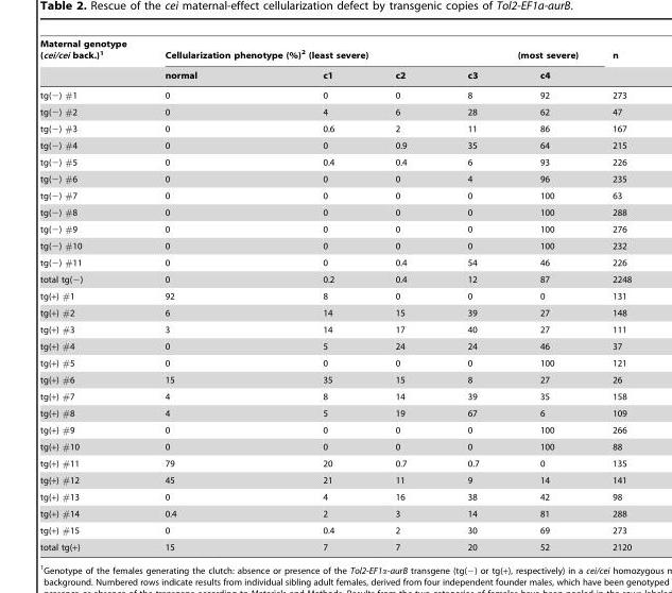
<table><thead><tr><td rowspan="2">Maternal genotype (cei/cei back.)<sup>1</sup></td><td colspan="5">Cellularization phenotype (%)<sup>2</sup> (least severe) (most severe)</td><td rowspan="2">n</td></tr><tr><td>normal</td><td>c1</td><td>c2</td><td>c3</td><td>c4</td></tr></thead><tbody><tr><td>tg(−) #1</td><td>0</td><td>0</td><td>0</td><td>8</td><td>92</td><td>273</td></tr><tr><td>tg(−) #2</td><td>0</td><td>4</td><td>6</td><td>28</td><td>62</td><td>47</td></tr><tr><td>tg(−) #3</td><td>0</td><td>0.6</td><td>2</td><td>11</td><td>86</td><td>167</td></tr><tr><td>tg(−) #4</td><td>0</td><td>0</td><td>0.9</td><td>35</td><td>64</td><td>215</td></tr><tr><td>tg(−) #5</td><td>0</td><td>0.4</td><td>0.4</td><td>6</td><td>93</td><td>226</td></tr><tr><td>tg(−) #6</td><td>0</td><td>0</td><td>0</td><td>4</td><td>96</td><td>235</td></tr><tr><td>tg(−) #7</td><td>0</td><td>0</td><td>0</td><td>0</td><td>100</td><td>63</td></tr><tr><td>tg(−) #8</td><td>0</td><td>0</td><td>0</td><td>0</td><td>100</td><td>288</td></tr><tr><td>tg(−) #9</td><td>0</td><td>0</td><td>0</td><td>0</td><td>100</td><td>276</td></tr><tr><td>tg(−) #10</td><td>0</td><td>0</td><td>0</td><td>0</td><td>100</td><td>232</td></tr><tr><td>tg(−) #11</td><td>0</td><td>0</td><td>0.4</td><td>54</td><td>46</td><td>226</td></tr><tr><td>total tg(−)</td><td>0</td><td>0.2</td><td>0.4</td><td>12</td><td>87</td><td>2248</td></tr><tr><td>tg(+) #1</td><td>92</td><td>8</td><td>0</td><td>0</td><td>0</td><td>131</td></tr><tr><td>tg(+) #2</td><td>6</td><td>14</td><td>15</td><td>39</td><td>27</td><td>148</td></tr><tr><td>tg(+) #3</td><td>3</td><td>14</td><td>17</td><td>40</td><td>27</td><td>111</td></tr><tr><td>tg(+) #4</td><td>0</td><td>5</td><td>24</td><td>24</td><td>46</td><td>37</td></tr><tr><td>tg(+) #5</td><td>0</td><td>0</td><td>0</td><td>0</td><td>100</td><td>121</td></tr><tr><td>tg(+) #6</td><td>15</td><td>35</td><td>15</td><td>8</td><td>27</td><td>26</td></tr><tr><td>tg(+) #7</td><td>4</td><td>8</td><td>14</td><td>39</td><td>35</td><td>158</td></tr><tr><td>tg(+) #8</td><td>4</td><td>5</td><td>19</td><td>67</td><td>6</td><td>109</td></tr><tr><td>tg(+) #9</td><td>0</td><td>0</td><td>0</td><td>0</td><td>100</td><td>266</td></tr><tr><td>tg(+) #10</td><td>0</td><td>0</td><td>0</td><td>0</td><td>100</td><td>88</td></tr><tr><td>tg(+) #11</td><td>79</td><td>20</td><td>0.7</td><td>0.7</td><td>0</td><td>135</td></tr><tr><td>tg(+) #12</td><td>45</td><td>21</td><td>11</td><td>9</td><td>14</td><td>141</td></tr><tr><td>tg(+) #13</td><td>0</td><td>4</td><td>16</td><td>38</td><td>42</td><td>98</td></tr><tr><td>tg(+) #14</td><td>0.4</td><td>2</td><td>3</td><td>14</td><td>81</td><td>288</td></tr><tr><td>tg(+) #15</td><td>0</td><td>0.4</td><td>2</td><td>30</td><td>69</td><td>273</td></tr><tr><td>total tg(+)</td><td>15</td><td>7</td><td>7</td><td>20</td><td>52</td><td>2120</td></tr></tbody></table>